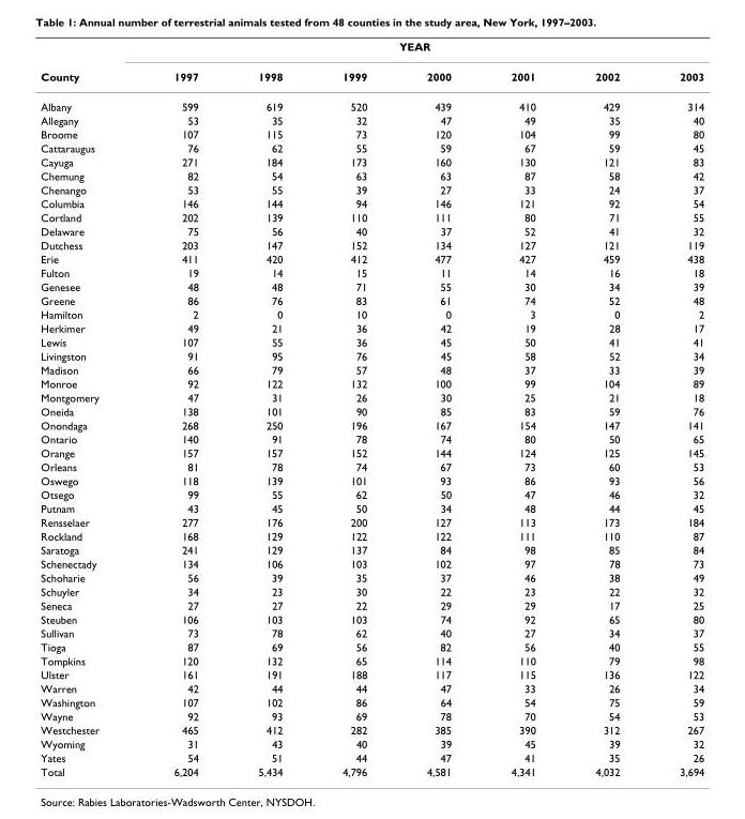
<table><thead><tr><td rowspan="2">County</td><td colspan="7">YEAR</td></tr><tr><td>1997</td><td>1998</td><td>1999</td><td>2000</td><td>2001</td><td>2002</td><td>2003</td></tr></thead><tbody><tr><td>Albany</td><td>599</td><td>619</td><td>520</td><td>439</td><td>410</td><td>429</td><td>314</td></tr><tr><td>Allegany</td><td>53</td><td>35</td><td>32</td><td>47</td><td>49</td><td>35</td><td>40</td></tr><tr><td>Broome</td><td>107</td><td>115</td><td>73</td><td>120</td><td>104</td><td>99</td><td>80</td></tr><tr><td>Cattaraugus</td><td>76</td><td>62</td><td>55</td><td>59</td><td>67</td><td>59</td><td>45</td></tr><tr><td>Cayuga</td><td>271</td><td>184</td><td>173</td><td>160</td><td>130</td><td>121</td><td>83</td></tr><tr><td>Chemung</td><td>82</td><td>54</td><td>63</td><td>63</td><td>87</td><td>58</td><td>42</td></tr><tr><td>Chenango</td><td>53</td><td>55</td><td>39</td><td>27</td><td>33</td><td>24</td><td>37</td></tr><tr><td>Columbia</td><td>146</td><td>144</td><td>94</td><td>146</td><td>121</td><td>92</td><td>54</td></tr><tr><td>Cortland</td><td>202</td><td>139</td><td>110</td><td>111</td><td>80</td><td>71</td><td>55</td></tr><tr><td>Delaware</td><td>75</td><td>56</td><td>40</td><td>37</td><td>52</td><td>41</td><td>32</td></tr><tr><td>Dutchess</td><td>203</td><td>147</td><td>152</td><td>134</td><td>127</td><td>121</td><td>119</td></tr><tr><td>Erie</td><td>411</td><td>420</td><td>412</td><td>477</td><td>427</td><td>459</td><td>438</td></tr><tr><td>Fulton</td><td>19</td><td>14</td><td>15</td><td>11</td><td>14</td><td>16</td><td>18</td></tr><tr><td>Genesee</td><td>48</td><td>48</td><td>71</td><td>55</td><td>30</td><td>34</td><td>39</td></tr><tr><td>Greene</td><td>86</td><td>76</td><td>83</td><td>61</td><td>74</td><td>52</td><td>48</td></tr><tr><td>Hamilton</td><td>2</td><td>0</td><td>10</td><td>0</td><td>3</td><td>0</td><td>2</td></tr><tr><td>Herkimer</td><td>49</td><td>21</td><td>36</td><td>42</td><td>19</td><td>28</td><td>17</td></tr><tr><td>Lewis</td><td>107</td><td>55</td><td>36</td><td>45</td><td>50</td><td>41</td><td>41</td></tr><tr><td>Livingston</td><td>91</td><td>95</td><td>76</td><td>45</td><td>58</td><td>52</td><td>34</td></tr><tr><td>Madison</td><td>66</td><td>79</td><td>57</td><td>48</td><td>37</td><td>33</td><td>39</td></tr><tr><td>Monroe</td><td>92</td><td>122</td><td>132</td><td>100</td><td>99</td><td>104</td><td>89</td></tr><tr><td>Montgomery</td><td>47</td><td>31</td><td>26</td><td>30</td><td>25</td><td>21</td><td>18</td></tr><tr><td>Oneida</td><td>138</td><td>101</td><td>90</td><td>85</td><td>83</td><td>59</td><td>76</td></tr><tr><td>Onondaga</td><td>268</td><td>250</td><td>196</td><td>167</td><td>154</td><td>147</td><td>141</td></tr><tr><td>Ontario</td><td>140</td><td>91</td><td>78</td><td>74</td><td>80</td><td>50</td><td>65</td></tr><tr><td>Orange</td><td>157</td><td>157</td><td>152</td><td>144</td><td>124</td><td>125</td><td>145</td></tr><tr><td>Orleans</td><td>81</td><td>78</td><td>74</td><td>67</td><td>73</td><td>60</td><td>53</td></tr><tr><td>Oswego</td><td>118</td><td>139</td><td>101</td><td>93</td><td>86</td><td>93</td><td>56</td></tr><tr><td>Otsego</td><td>99</td><td>55</td><td>62</td><td>50</td><td>47</td><td>46</td><td>32</td></tr><tr><td>Putnam</td><td>43</td><td>45</td><td>50</td><td>34</td><td>48</td><td>44</td><td>45</td></tr><tr><td>Rensselaer</td><td>277</td><td>176</td><td>200</td><td>127</td><td>113</td><td>173</td><td>184</td></tr><tr><td>Rockland</td><td>168</td><td>129</td><td>122</td><td>122</td><td>111</td><td>110</td><td>87</td></tr><tr><td>Saratoga</td><td>241</td><td>129</td><td>137</td><td>84</td><td>98</td><td>85</td><td>84</td></tr><tr><td>Schenectady</td><td>134</td><td>106</td><td>103</td><td>102</td><td>97</td><td>78</td><td>73</td></tr><tr><td>Schoharie</td><td>56</td><td>39</td><td>35</td><td>37</td><td>46</td><td>38</td><td>49</td></tr><tr><td>Schuyler</td><td>34</td><td>23</td><td>30</td><td>22</td><td>23</td><td>22</td><td>32</td></tr><tr><td>Seneca</td><td>27</td><td>27</td><td>22</td><td>29</td><td>29</td><td>17</td><td>25</td></tr><tr><td>Steuben</td><td>106</td><td>103</td><td>103</td><td>74</td><td>92</td><td>65</td><td>80</td></tr><tr><td>Sullivan</td><td>73</td><td>78</td><td>62</td><td>40</td><td>27</td><td>34</td><td>37</td></tr><tr><td>Tioga</td><td>87</td><td>69</td><td>56</td><td>82</td><td>56</td><td>40</td><td>55</td></tr><tr><td>Tompkins</td><td>120</td><td>132</td><td>65</td><td>114</td><td>110</td><td>79</td><td>98</td></tr><tr><td>Ulster</td><td>161</td><td>191</td><td>188</td><td>117</td><td>115</td><td>136</td><td>122</td></tr><tr><td>Warren</td><td>42</td><td>44</td><td>44</td><td>47</td><td>33</td><td>26</td><td>34</td></tr><tr><td>Washington</td><td>107</td><td>102</td><td>86</td><td>64</td><td>54</td><td>75</td><td>59</td></tr><tr><td>Wayne</td><td>92</td><td>93</td><td>69</td><td>78</td><td>70</td><td>54</td><td>53</td></tr><tr><td>Westchester</td><td>465</td><td>412</td><td>282</td><td>385</td><td>390</td><td>312</td><td>267</td></tr><tr><td>Wyoming</td><td>31</td><td>43</td><td>40</td><td>39</td><td>45</td><td>39</td><td>32</td></tr><tr><td>Yates</td><td>54</td><td>51</td><td>44</td><td>47</td><td>41</td><td>35</td><td>26</td></tr><tr><td>Total</td><td>6,204</td><td>5,434</td><td>4,796</td><td>4,581</td><td>4,341</td><td>4,032</td><td>3,694</td></tr></tbody></table>